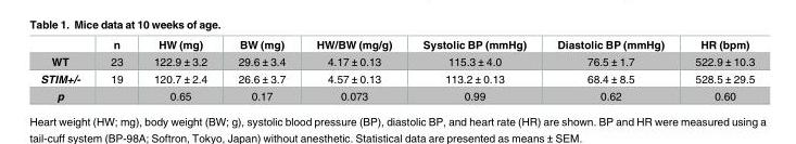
<table><thead><tr><td></td><td>n</td><td>HW (mg)</td><td>BW (mg)</td><td>HW/BW (mg/g)</td><td>Systolic BP (mmHg)</td><td>Diastolic BP (mmHg)</td><td>HR (bpm)</td></tr></thead><tbody><tr><td>WT</td><td>23</td><td>122.9 ± 3.2</td><td>29.6 ± 3.4</td><td>4.17 ± 0.13</td><td>115.3 ± 4.0</td><td>76.5 ± 1.7</td><td>522.9 ± 10.3</td></tr><tr><td>STIM+/-</td><td>19</td><td>120.7 ± 2.4</td><td>26.6 ± 3.7</td><td>4.57 ± 0.13</td><td>113.2 ± 0.13</td><td>68.4 ± 8.5</td><td>528.5 ± 29.5</td></tr><tr><td>p</td><td></td><td>0.65</td><td>0.17</td><td>0.073</td><td>0.99</td><td>0.62</td><td>0.60</td></tr></tbody></table>